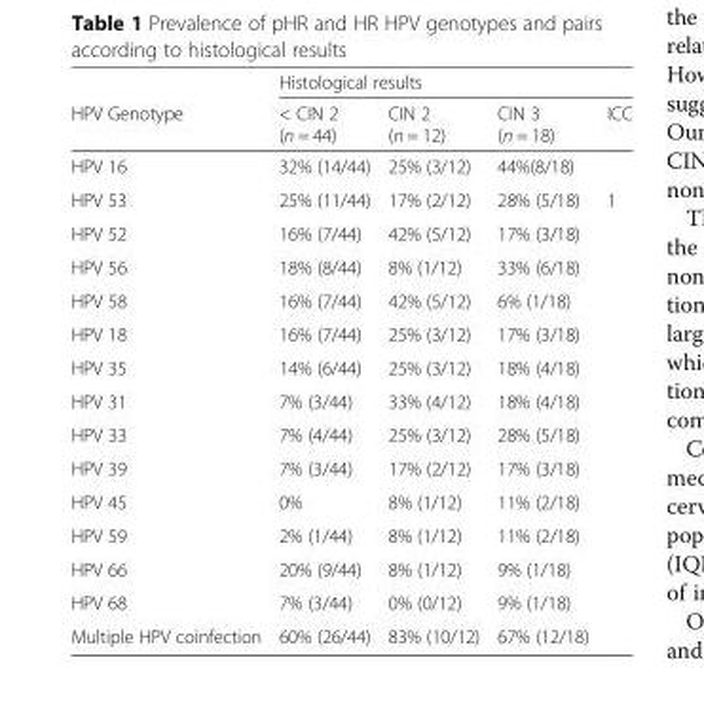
<table><thead><tr><td rowspan="2">HPV Genotype</td><td colspan="4">Histological results</td></tr><tr><td>&lt; CIN 2 (n = 44)</td><td>CIN 2 (n = 12)</td><td>CIN 3 (n = 18)</td><td>ICC</td></tr></thead><tbody><tr><td>HPV 16</td><td>32% (14/44)</td><td>25% (3/12)</td><td>44%(8/18)</td><td></td></tr><tr><td>HPV 53</td><td>25% (11/44)</td><td>17% (2/12)</td><td>28% (5/18)</td><td>1</td></tr><tr><td>HPV 52</td><td>16% (7/44)</td><td>42% (5/12)</td><td>17% (3/18)</td><td></td></tr><tr><td>HPV 56</td><td>18% (8/44)</td><td>8% (1/12)</td><td>33% (6/18)</td><td></td></tr><tr><td>HPV 58</td><td>16% (7/44)</td><td>42% (5/12)</td><td>6% (1/18)</td><td></td></tr><tr><td>HPV 18</td><td>16% (7/44)</td><td>25% (3/12)</td><td>17% (3/18)</td><td></td></tr><tr><td>HPV 35</td><td>14% (6/44)</td><td>25% (3/12)</td><td>18% (4/18)</td><td></td></tr><tr><td>HPV 31</td><td>7% (3/44)</td><td>33% (4/12)</td><td>18% (4/18)</td><td></td></tr><tr><td>HPV 33</td><td>7% (4/44)</td><td>25% (3/12)</td><td>28% (5/18)</td><td></td></tr><tr><td>HPV 39</td><td>7% (3/44)</td><td>17% (2/12)</td><td>17% (3/18)</td><td></td></tr><tr><td>HPV 45</td><td>0%</td><td>8% (1/12)</td><td>11% (2/18)</td><td></td></tr><tr><td>HPV 59</td><td>2% (1/44)</td><td>8% (1/12)</td><td>11% (2/18)</td><td></td></tr><tr><td>HPV 66</td><td>20% (9/44)</td><td>8% (1/12)</td><td>9% (1/18)</td><td></td></tr><tr><td>HPV 68</td><td>7% (3/44)</td><td>0% (0/12)</td><td>9% (1/18)</td><td></td></tr><tr><td>Multiple HPV coinfection</td><td>60% (26/44)</td><td>83% (10/12)</td><td>67% (12/18)</td><td></td></tr></tbody></table>